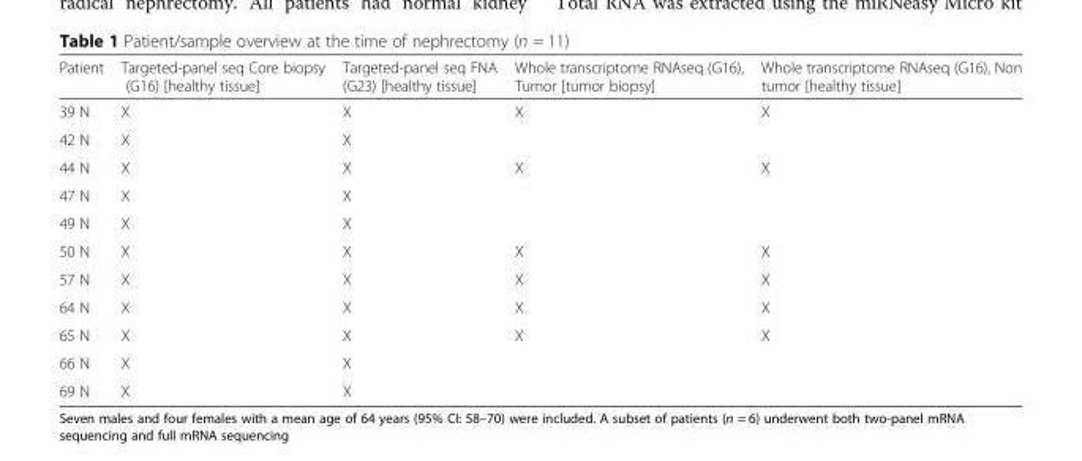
<table><thead><tr><td>Patient</td><td>Targeted-panel seq Core biopsy (G16) [healthy tissue]</td><td>Targeted-panel seq FNA (G23) [healthy tissue]</td><td>Whole transcriptome RNAseq (G16), Tumor [tumor biopsy]</td><td>Whole transcriptome RNAseq (G16), Non tumor [healthy tissue]</td></tr></thead><tbody><tr><td>39 N</td><td>X</td><td>X</td><td>X</td><td>X</td></tr><tr><td>42 N</td><td>X</td><td>X</td><td></td><td></td></tr><tr><td>44 N</td><td>X</td><td>X</td><td>X</td><td>X</td></tr><tr><td>47 N</td><td>X</td><td>X</td><td></td><td></td></tr><tr><td>49 N</td><td>X</td><td>X</td><td></td><td></td></tr><tr><td>50 N</td><td>X</td><td>X</td><td>X</td><td>X</td></tr><tr><td>57 N</td><td>X</td><td>X</td><td>X</td><td>X</td></tr><tr><td>64 N</td><td>X</td><td>X</td><td>X</td><td>X</td></tr><tr><td>65 N</td><td>X</td><td>X</td><td>X</td><td>X</td></tr><tr><td>66 N</td><td>X</td><td>X</td><td></td><td></td></tr><tr><td>69 N</td><td>X</td><td>X</td><td></td><td></td></tr></tbody></table>